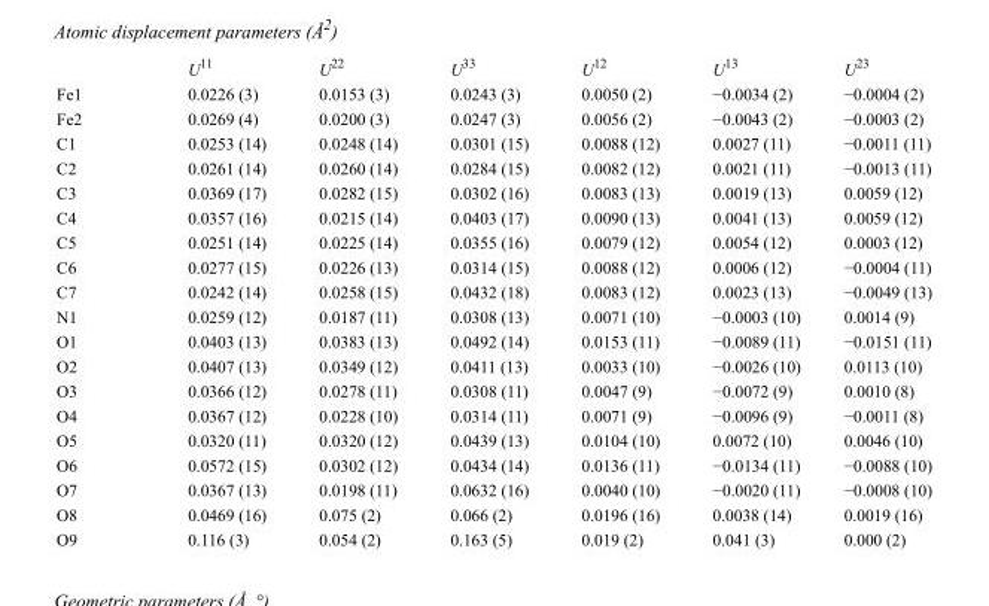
<table><thead><tr><td></td><td>U<sup>11</sup></td><td>U<sup>22</sup></td><td>U<sup>33</sup></td><td>U<sup>12</sup></td><td>U<sup>13</sup></td><td>U<sup>23</sup></td></tr></thead><tbody><tr><td>Fe1</td><td>0.0226 (3)</td><td>0.0153 (3)</td><td>0.0243 (3)</td><td>0.0050 (2)</td><td>−0.0034 (2)</td><td>−0.0004 (2)</td></tr><tr><td>Fe2</td><td>0.0269 (4)</td><td>0.0200 (3)</td><td>0.0247 (3)</td><td>0.0056 (2)</td><td>−0.0043 (2)</td><td>−0.0003 (2)</td></tr><tr><td>C1</td><td>0.0253 (14)</td><td>0.0248 (14)</td><td>0.0301 (15)</td><td>0.0088 (12)</td><td>0.0027 (11)</td><td>−0.0011 (11)</td></tr><tr><td>C2</td><td>0.0261 (14)</td><td>0.0260 (14)</td><td>0.0284 (15)</td><td>0.0082 (12)</td><td>0.0021 (11)</td><td>−0.0013 (11)</td></tr><tr><td>C3</td><td>0.0369 (17)</td><td>0.0282 (15)</td><td>0.0302 (16)</td><td>0.0083 (13)</td><td>0.0019 (13)</td><td>0.0059 (12)</td></tr><tr><td>C4</td><td>0.0357 (16)</td><td>0.0215 (14)</td><td>0.0403 (17)</td><td>0.0090 (13)</td><td>0.0041 (13)</td><td>0.0059 (12)</td></tr><tr><td>C5</td><td>0.0251 (14)</td><td>0.0225 (14)</td><td>0.0355 (16)</td><td>0.0079 (12)</td><td>0.0054 (12)</td><td>0.0003 (12)</td></tr><tr><td>C6</td><td>0.0277 (15)</td><td>0.0226 (13)</td><td>0.0314 (15)</td><td>0.0088 (12)</td><td>0.0006 (12)</td><td>−0.0004 (11)</td></tr><tr><td>C7</td><td>0.0242 (14)</td><td>0.0258 (15)</td><td>0.0432 (18)</td><td>0.0083 (12)</td><td>0.0023 (13)</td><td>−0.0049 (13)</td></tr><tr><td>N1</td><td>0.0259 (12)</td><td>0.0187 (11)</td><td>0.0308 (13)</td><td>0.0071 (10)</td><td>−0.0003 (10)</td><td>0.0014 (9)</td></tr><tr><td>O1</td><td>0.0403 (13)</td><td>0.0383 (13)</td><td>0.0492 (14)</td><td>0.0153 (11)</td><td>−0.0089 (11)</td><td>−0.0151 (11)</td></tr><tr><td>O2</td><td>0.0407 (13)</td><td>0.0349 (12)</td><td>0.0411 (13)</td><td>0.0033 (10)</td><td>−0.0026 (10)</td><td>0.0113 (10)</td></tr><tr><td>O3</td><td>0.0366 (12)</td><td>0.0278 (11)</td><td>0.0308 (11)</td><td>0.0047 (9)</td><td>−0.0072 (9)</td><td>0.0010 (8)</td></tr><tr><td>O4</td><td>0.0367 (12)</td><td>0.0228 (10)</td><td>0.0314 (11)</td><td>0.0071 (9)</td><td>−0.0096 (9)</td><td>−0.0011 (8)</td></tr><tr><td>O5</td><td>0.0320 (11)</td><td>0.0320 (12)</td><td>0.0439 (13)</td><td>0.0104 (10)</td><td>0.0072 (10)</td><td>0.0046 (10)</td></tr><tr><td>O6</td><td>0.0572 (15)</td><td>0.0302 (12)</td><td>0.0434 (14)</td><td>0.0136 (11)</td><td>−0.0134 (11)</td><td>−0.0088 (10)</td></tr><tr><td>O7</td><td>0.0367 (13)</td><td>0.0198 (11)</td><td>0.0632 (16)</td><td>0.0040 (10)</td><td>−0.0020 (11)</td><td>−0.0008 (10)</td></tr><tr><td>O8</td><td>0.0469 (16)</td><td>0.075 (2)</td><td>0.066 (2)</td><td>0.0196 (16)</td><td>0.0038 (14)</td><td>0.0019 (16)</td></tr><tr><td>O9</td><td>0.116 (3)</td><td>0.054 (2)</td><td>0.163 (5)</td><td>0.019 (2)</td><td>0.041 (3)</td><td>0.000 (2)</td></tr></tbody></table>